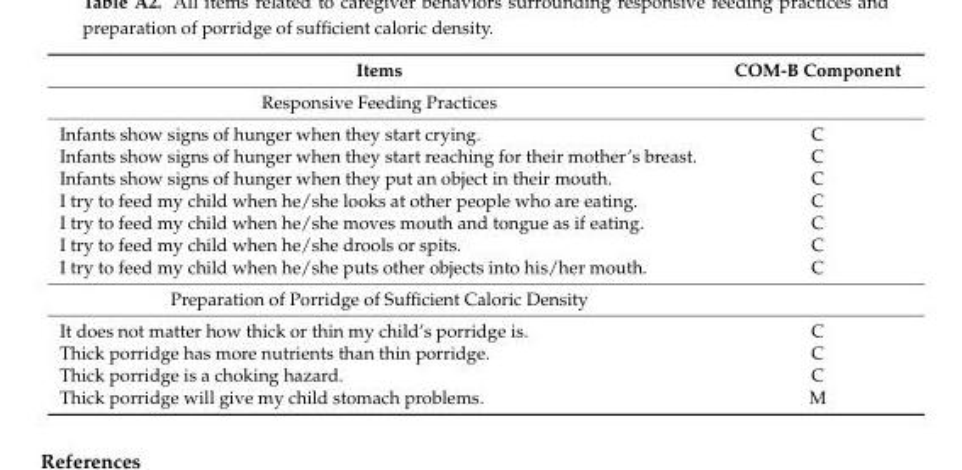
<table><thead><tr><td>Items</td><td>COM-B Component</td></tr></thead><tbody><tr><td colspan="2">Responsive Feeding Practices</td></tr><tr><td>Infants show signs of hunger when they start crying.</td><td>C</td></tr><tr><td>Infants show signs of hunger when they start reaching for their mother’s breast.</td><td>C</td></tr><tr><td>Infants show signs of hunger when they put an object in their mouth.</td><td>C</td></tr><tr><td>I try to feed my child when he/she looks at other people who are eating.</td><td>C</td></tr><tr><td>I try to feed my child when he/she moves mouth and tongue as if eating.</td><td>C</td></tr><tr><td>I try to feed my child when he/she drools or spits.</td><td>C</td></tr><tr><td>I try to feed my child when he/she puts other objects into his/her mouth.</td><td>C</td></tr><tr><td colspan="2">Preparation of Porridge of Sufficient Caloric Density</td></tr><tr><td>It does not matter how thick or thin my child’s porridge is.</td><td>C</td></tr><tr><td>Thick porridge has more nutrients than thin porridge.</td><td>C</td></tr><tr><td>Thick porridge is a choking hazard.</td><td>C</td></tr><tr><td>Thick porridge will give my child stomach problems.</td><td>M</td></tr></tbody></table>